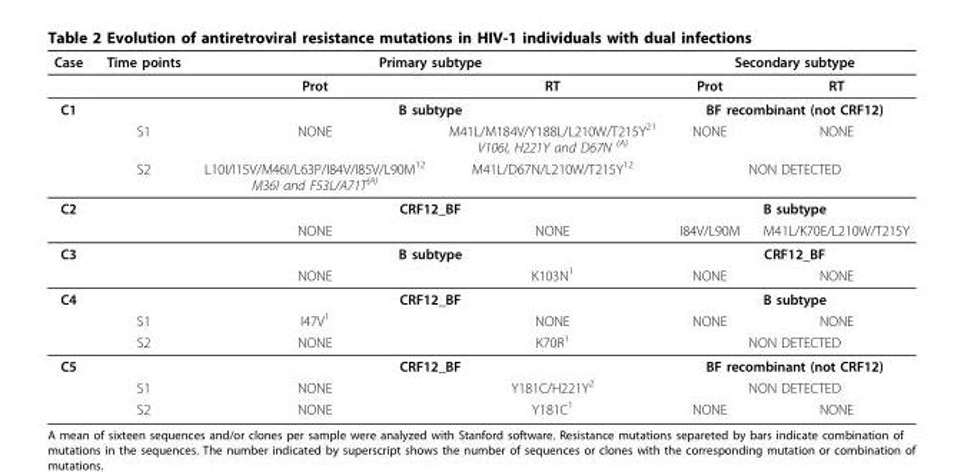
<table><thead><tr><td>Case</td><td>Time points</td><td colspan="2">Primary subtype</td><td colspan="2">Secondary subtype</td></tr><tr><td colspan="2"></td><td>Prot</td><td>RT</td><td>Prot</td><td>RT</td></tr></thead><tbody><tr><td rowspan="3">C1</td><td></td><td colspan="2">B subtype</td><td colspan="2">BF recombinant (not CRF12)</td></tr><tr><td>S1</td><td>NONE</td><td>M41L/M184V/Y188L/L210W/T215Y<sup>21</sup> V106I, H221Y and D67N <sup>(A)</sup></td><td>NONE</td><td>NONE</td></tr><tr><td>S2</td><td>L10I/I15V/M46I/L63P/I84V/I85V/L90M<sup>12</sup> M36I and F53L/A71T<sup>(A)</sup></td><td>M41L/D67N/L210W/T215Y<sup>12</sup></td><td colspan="2">NON DETECTED</td></tr><tr><td rowspan="2">C2</td><td></td><td colspan="2">CRF12_BF</td><td colspan="2">B subtype</td></tr><tr><td></td><td>NONE</td><td>NONE</td><td>I84V/L90M</td><td>M41L/K70E/L210W/T215Y</td></tr><tr><td rowspan="2">C3</td><td></td><td colspan="2">B subtype</td><td colspan="2">CRF12_BF</td></tr><tr><td></td><td>NONE</td><td>K103N<sup>1</sup></td><td>NONE</td><td>NONE</td></tr><tr><td rowspan="3">C4</td><td></td><td colspan="2">CRF12_BF</td><td colspan="2">B subtype</td></tr><tr><td>S1</td><td>I47V<sup>1</sup></td><td>NONE</td><td>NONE</td><td>NONE</td></tr><tr><td>S2</td><td>NONE</td><td>K70R<sup>1</sup></td><td colspan="2">NON DETECTED</td></tr><tr><td rowspan="3">C5</td><td></td><td colspan="2">CRF12_BF</td><td colspan="2">BF recombinant (not CRF12)</td></tr><tr><td>S1</td><td>NONE</td><td>Y181C/H221Y<sup>2</sup></td><td colspan="2">NON DETECTED</td></tr><tr><td>S2</td><td>NONE</td><td>Y181C<sup>1</sup></td><td>NONE</td><td>NONE</td></tr></tbody></table>